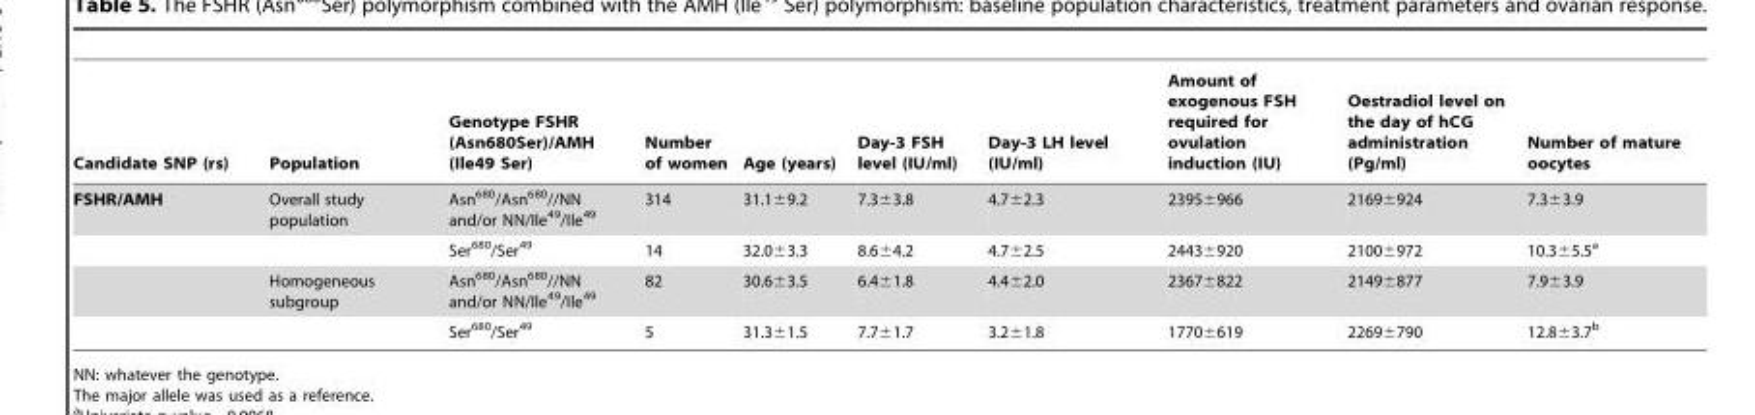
<table><thead><tr><td>Candidate SNP (rs)</td><td>Population</td><td>Genotype FSHR (Asn680Ser)/AMH (Ile49 Ser)</td><td>Number of women</td><td>Age (years)</td><td>Day-3 FSH level (IU/ml)</td><td>Day-3 LH level (IU/ml)</td><td>Amount of exogenous FSH required for ovulation induction (IU)</td><td>Oestradiol level on the day of hCG administration (Pg/ml)</td><td>Number of mature oocytes</td></tr></thead><tbody><tr><td rowspan="4">FSHR/AMH</td><td>Overall study population</td><td>Asn<sup>680</sup>/Asn<sup>680</sup>//NN and/or NN/Ile<sup>49</sup>/Ile<sup>49</sup></td><td>314</td><td>31.1±9.2</td><td>7.3±3.8</td><td>4.7±2.3</td><td>2395±966</td><td>2169±924</td><td>7.3±3.9</td></tr><tr><td></td><td>Ser<sup>680</sup>/Ser<sup>49</sup></td><td>14</td><td>32.0±3.3</td><td>8.6±4.2</td><td>4.7±2.5</td><td>2443±920</td><td>2100±972</td><td>10.3±5.5<sup>a</sup></td></tr><tr><td>Homogeneous subgroup</td><td>Asn<sup>680</sup>/Asn<sup>680</sup>//NN and/or NN/Ile<sup>49</sup>/Ile<sup>49</sup></td><td>82</td><td>30.6±3.5</td><td>6.4±1.8</td><td>4.4±2.0</td><td>2367±822</td><td>2149±877</td><td>7.9±3.9</td></tr><tr><td></td><td>Ser<sup>680</sup>/Ser<sup>49</sup></td><td>5</td><td>31.3±1.5</td><td>7.7±1.7</td><td>3.2±1.8</td><td>1770±619</td><td>2269±790</td><td>12.8±3.7<sup>b</sup></td></tr></tbody></table>